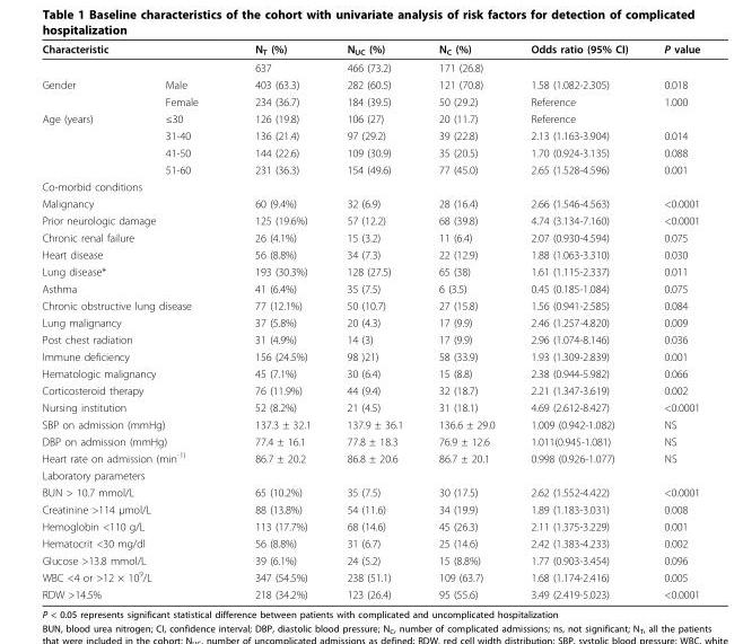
<table><thead><tr><td>Characteristic</td><td></td><td>N<sub>T</sub> (%)</td><td>N<sub>UC</sub> (%)</td><td>N<sub>C</sub> (%)</td><td>Odds ratio (95% CI)</td><td>P value</td></tr></thead><tbody><tr><td></td><td></td><td>637</td><td>466 (73.2)</td><td>171 (26.8)</td><td></td><td></td></tr><tr><td rowspan="2">Gender</td><td>Male</td><td>403 (63.3)</td><td>282 (60.5)</td><td>121 (70.8)</td><td>1.58 (1.082-2.305)</td><td>0.018</td></tr><tr><td>Female</td><td>234 (36.7)</td><td>184 (39.5)</td><td>50 (29.2)</td><td>Reference</td><td>1.000</td></tr><tr><td rowspan="4">Age (years)</td><td>≤30</td><td>126 (19.8)</td><td>106 (27)</td><td>20 (11.7)</td><td>Reference</td><td></td></tr><tr><td>31-40</td><td>136 (21.4)</td><td>97 (29.2)</td><td>39 (22.8)</td><td>2.13 (1.163-3.904)</td><td>0.014</td></tr><tr><td>41-50</td><td>144 (22.6)</td><td>109 (30.9)</td><td>35 (20.5)</td><td>1.70 (0.924-3.135)</td><td>0.088</td></tr><tr><td>51-60</td><td>231 (36.3)</td><td>154 (49.6)</td><td>77 (45.0)</td><td>2.65 (1.528-4.596)</td><td>0.001</td></tr><tr><td colspan="7">Co-morbid conditions</td></tr><tr><td colspan="2">Malignancy</td><td>60 (9.4%)</td><td>32 (6.9)</td><td>28 (16.4)</td><td>2.66 (1.546-4.563)</td><td>&lt;0.0001</td></tr><tr><td colspan="2">Prior neurologic damage</td><td>125 (19.6%)</td><td>57 (12.2)</td><td>68 (39.8)</td><td>4.74 (3.134-7.160)</td><td>&lt;0.0001</td></tr><tr><td colspan="2">Chronic renal failure</td><td>26 (4.1%)</td><td>15 (3.2)</td><td>11 (6.4)</td><td>2.07 (0.930-4.594)</td><td>0.075</td></tr><tr><td colspan="2">Heart disease</td><td>56 (8.8%)</td><td>34 (7.3)</td><td>22 (12.9)</td><td>1.88 (1.063-3.310)</td><td>0.030</td></tr><tr><td colspan="2">Lung disease*</td><td>193 (30.3%)</td><td>128 (27.5)</td><td>65 (38)</td><td>1.61 (1.115-2.337)</td><td>0.011</td></tr><tr><td colspan="2">Asthma</td><td>41 (6.4%)</td><td>35 (7.5)</td><td>6 (3.5)</td><td>0.45 (0.185-1.084)</td><td>0.075</td></tr><tr><td colspan="2">Chronic obstructive lung disease</td><td>77 (12.1%)</td><td>50 (10.7)</td><td>27 (15.8)</td><td>1.56 (0.941-2.585)</td><td>0.084</td></tr><tr><td colspan="2">Lung malignancy</td><td>37 (5.8%)</td><td>20 (4.3)</td><td>17 (9.9)</td><td>2.46 (1.257-4.820)</td><td>0.009</td></tr><tr><td colspan="2">Post chest radiation</td><td>31 (4.9%)</td><td>14 (3)</td><td>17 (9.9)</td><td>2.96 (1.074-8.146)</td><td>0.036</td></tr><tr><td colspan="2">Immune deficiency</td><td>156 (24.5%)</td><td>98 )21)</td><td>58 (33.9)</td><td>1.93 (1.309-2.839)</td><td>0.001</td></tr><tr><td colspan="2">Hematologic malignancy</td><td>45 (7.1%)</td><td>30 (6.4)</td><td>15 (8.8)</td><td>2.38 (0.944-5.982)</td><td>0.066</td></tr><tr><td colspan="2">Corticosteroid therapy</td><td>76 (11.9%)</td><td>44 (9.4)</td><td>32 (18.7)</td><td>2.21 (1.347-3.619)</td><td>0.002</td></tr><tr><td colspan="2">Nursing institution</td><td>52 (8.2%)</td><td>21 (4.5)</td><td>31 (18.1)</td><td>4.69 (2.612-8.427)</td><td>&lt;0.0001</td></tr><tr><td colspan="2">SBP on admission (mmHg)</td><td>137.3 ± 32.1</td><td>137.9 ± 36.1</td><td>136.6 ± 29.0</td><td>1.009 (0.942-1.082)</td><td>NS</td></tr><tr><td colspan="2">DBP on admission (mmHg)</td><td>77.4 ± 16.1</td><td>77.8 ± 18.3</td><td>76.9 ± 12.6</td><td>1.011(0.945-1.081)</td><td>NS</td></tr><tr><td colspan="2">Heart rate on admission (min<sup>-1)</sup></td><td>86.7 ± 20.2</td><td>86.8 ± 20.6</td><td>86.7 ± 20.1</td><td>0.998 (0.926-1.077)</td><td>NS</td></tr><tr><td colspan="7">Laboratory parameters</td></tr><tr><td colspan="2">BUN &gt; 10.7 mmol/L</td><td>65 (10.2%)</td><td>35 (7.5)</td><td>30 (17.5)</td><td>2.62 (1.552-4.422)</td><td>&lt;0.0001</td></tr><tr><td colspan="2">Creatinine &gt;114 μmol/L</td><td>88 (13.8%)</td><td>54 (11.6)</td><td>34 (19.9)</td><td>1.89 (1.183-3.031)</td><td>0.008</td></tr><tr><td colspan="2">Hemoglobin &lt;110 g/L</td><td>113 (17.7%)</td><td>68 (14.6)</td><td>45 (26.3)</td><td>2.11 (1.375-3.229)</td><td>0.001</td></tr><tr><td colspan="2">Hematocrit &lt;30 mg/dl</td><td>56 (8.8%)</td><td>31 (6.7)</td><td>25 (14.6)</td><td>2.42 (1.383-4.233)</td><td>0.002</td></tr><tr><td colspan="2">Glucose &gt;13.8 mmol/L</td><td>39 (6.1%)</td><td>24 (5.2)</td><td>15 (8.8%)</td><td>1.77 (0.903-3.454)</td><td>0.096</td></tr><tr><td colspan="2">WBC &lt;4 or &gt;12 × 10<sup>9</sup>/L</td><td>347 (54.5%)</td><td>238 (51.1)</td><td>109 (63.7)</td><td>1.68 (1.174-2.416)</td><td>0.005</td></tr><tr><td colspan="2">RDW &gt;14.5%</td><td>218 (34.2%)</td><td>123 (26.4)</td><td>95 (55.6)</td><td>3.49 (2.419-5.023)</td><td>&lt;0.0001</td></tr></tbody></table>